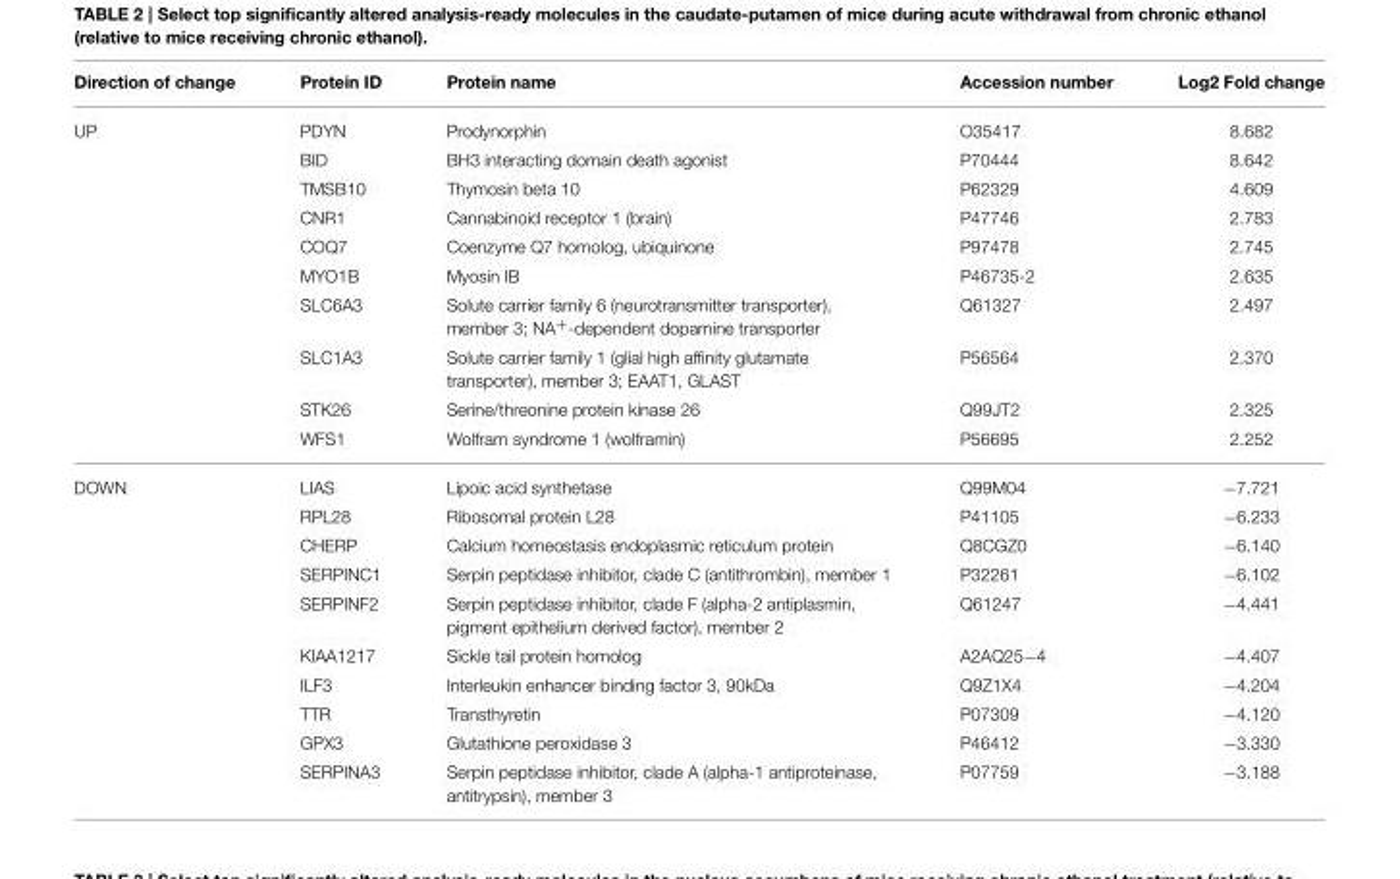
<table><thead><tr><td>Direction of change</td><td>Protein ID</td><td>Protein name</td><td>Accession number</td><td>Log2 Fold change</td></tr></thead><tbody><tr><td rowspan="10">UP</td><td>PDYN</td><td>Prodynorphin</td><td>O35417</td><td>8.682</td></tr><tr><td>BID</td><td>BH3 interacting domain death agonist</td><td>P70444</td><td>8.642</td></tr><tr><td>TMSB10</td><td>Thymosin beta 10</td><td>P62329</td><td>4.609</td></tr><tr><td>CNR1</td><td>Cannabinoid receptor 1 (brain)</td><td>P47746</td><td>2.783</td></tr><tr><td>COQ7</td><td>Coenzyme Q7 homolog, ubiquinone</td><td>P97478</td><td>2.745</td></tr><tr><td>MYO1B</td><td>Myosin IB</td><td>P46735-2</td><td>2.635</td></tr><tr><td>SLC6A3</td><td>Solute carrier family 6 (neurotransmitter transporter), member 3; NA<sup>+</sup>-dependent dopamine transporter</td><td>Q61327</td><td>2.497</td></tr><tr><td>SLC1A3</td><td>Solute carrier family 1 (glial high affinity glutamate transporter), member 3; EAAT1, GLAST</td><td>P56564</td><td>2.370</td></tr><tr><td>STK26</td><td>Serine/threonine protein kinase 26</td><td>Q99JT2</td><td>2.325</td></tr><tr><td>WFS1</td><td>Wolfram syndrome 1 (wolframin)</td><td>P56695</td><td>2.252</td></tr><tr><td rowspan="10">DOWN</td><td>LIAS</td><td>Lipoic acid synthetase</td><td>Q99M04</td><td>−7.721</td></tr><tr><td>RPL28</td><td>Ribosomal protein L28</td><td>P41105</td><td>−6.233</td></tr><tr><td>CHERP</td><td>Calcium homeostasis endoplasmic reticulum protein</td><td>Q8CGZ0</td><td>−6.140</td></tr><tr><td>SERPINC1</td><td>Serpin peptidase inhibitor, clade C (antithrombin), member 1</td><td>P32261</td><td>−6.102</td></tr><tr><td>SERPINF2</td><td>Serpin peptidase inhibitor, clade F (alpha-2 antiplasmin, pigment epithelium derived factor), member 2</td><td>Q61247</td><td>−4.441</td></tr><tr><td>KIAA1217</td><td>Sickle tail protein homolog</td><td>A2AQ25−4</td><td>−4.407</td></tr><tr><td>ILF3</td><td>Interleukin enhancer binding factor 3, 90kDa</td><td>Q9Z1X4</td><td>−4.204</td></tr><tr><td>TTR</td><td>Transthyretin</td><td>P07309</td><td>−4.120</td></tr><tr><td>GPX3</td><td>Glutathione peroxidase 3</td><td>P46412</td><td>−3.330</td></tr><tr><td>SERPINA3</td><td>Serpin peptidase inhibitor, clade A (alpha-1 antiproteinase, antitrypsin), member 3</td><td>P07759</td><td>−3.188</td></tr></tbody></table>